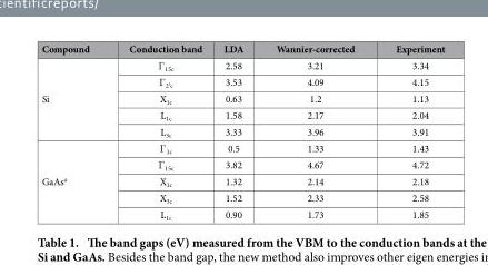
<table><thead><tr><td>Compound</td><td>Conduction band</td><td>LDA</td><td>Wannier-corrected</td><td>Experiment</td></tr></thead><tbody><tr><td rowspan="5">Si</td><td>Γ <sub>15c</sub></td><td>2.58</td><td>3.21</td><td>3.34</td></tr><tr><td>Γ <sub>2′c</sub></td><td>3.53</td><td>4.09</td><td>4.15</td></tr><tr><td>X<sub>1c</sub></td><td>0.63</td><td>1.2</td><td>1.13</td></tr><tr><td>L<sub>1c</sub></td><td>1.58</td><td>2.17</td><td>2.04</td></tr><tr><td>L<sub>3c</sub></td><td>3.33</td><td>3.96</td><td>3.91</td></tr><tr><td rowspan="5">GaAs<sup>a</sup></td><td>Γ <sub>1c</sub></td><td>0.5</td><td>1.33</td><td>1.43</td></tr><tr><td>Γ <sub>15c</sub></td><td>3.82</td><td>4.67</td><td>4.72</td></tr><tr><td>X<sub>1c</sub></td><td>1.32</td><td>2.14</td><td>2.18</td></tr><tr><td>X<sub>3c</sub></td><td>1.52</td><td>2.33</td><td>2.58</td></tr><tr><td>L<sub>1c</sub></td><td>0.90</td><td>1.73</td><td>1.85</td></tr></tbody></table>